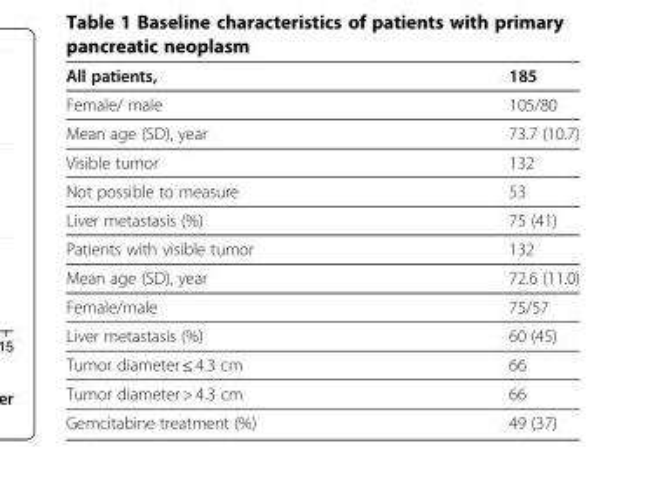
<table><thead><tr><td>All patients,</td><td>185</td></tr></thead><tbody><tr><td>Female/ male</td><td>105/80</td></tr><tr><td>Mean age (SD), year</td><td>73.7 (10.7)</td></tr><tr><td>Visible tumor</td><td>132</td></tr><tr><td>Not possible to measure</td><td>53</td></tr><tr><td>Liver metastasis (%)</td><td>75 (41)</td></tr><tr><td>Patients with visible tumor</td><td>132</td></tr><tr><td>Mean age (SD), year</td><td>72.6 (11.0)</td></tr><tr><td>Female/male</td><td>75/57</td></tr><tr><td>Liver metastasis (%)</td><td>60 (45)</td></tr><tr><td>Tumor diameter ≤ 4.3 cm</td><td>66</td></tr><tr><td>Tumor diameter &gt; 4.3 cm</td><td>66</td></tr><tr><td>Gemcitabine treatment (%)</td><td>49 (37)</td></tr></tbody></table>